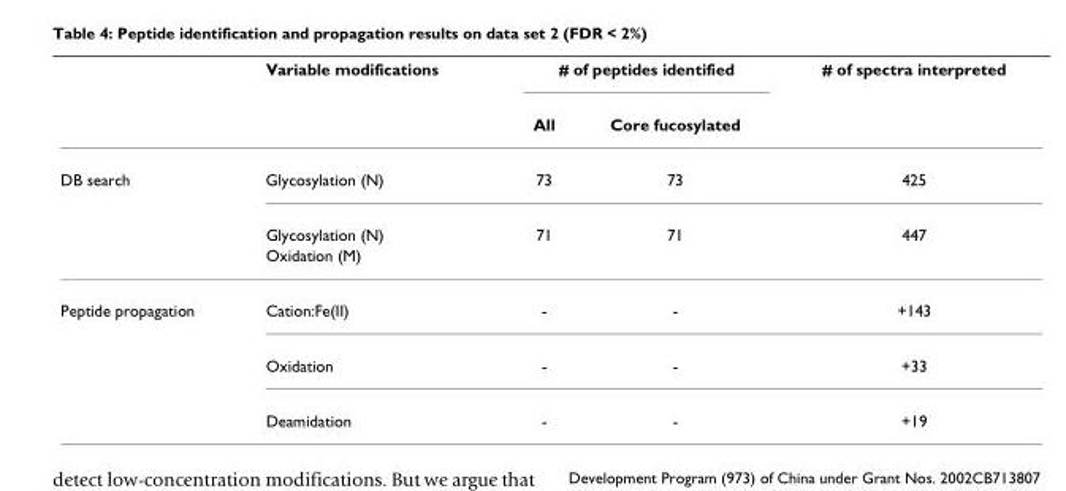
<table><thead><tr><td rowspan="2"></td><td rowspan="2">Variable modifications</td><td colspan="2"># of peptides identified</td><td rowspan="2"># of spectra interpreted</td></tr><tr><td>All</td><td>Core fucosylated</td></tr></thead><tbody><tr><td rowspan="3">DB search</td><td>Glycosylation (N)</td><td>73</td><td>73</td><td>425</td></tr><tr><td>Glycosylation (N)</td><td>71</td><td>71</td><td>447</td></tr><tr><td>Oxidation (M)</td><td></td><td></td><td></td></tr><tr><td rowspan="3">Peptide propagation</td><td>Cation:Fe(II)</td><td>-</td><td>-</td><td>+143</td></tr><tr><td>Oxidation</td><td>-</td><td>-</td><td>+33</td></tr><tr><td>Deamidation</td><td>-</td><td>-</td><td>+19</td></tr></tbody></table>